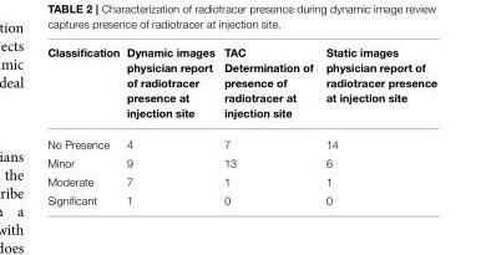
<table><thead><tr><td>Classification</td><td>Dynamic images physician report of radiotracer presence at injection site</td><td>TAC Determination of presence of radiotracer at injection site</td><td>Static images physician report of radiotracer presence at injection site</td></tr></thead><tbody><tr><td>No Presence</td><td>4</td><td>7</td><td>14</td></tr><tr><td>Minor</td><td>9</td><td>13</td><td>6</td></tr><tr><td>Moderate</td><td>7</td><td>1</td><td>1</td></tr><tr><td>Significant</td><td>1</td><td>0</td><td>0</td></tr></tbody></table>